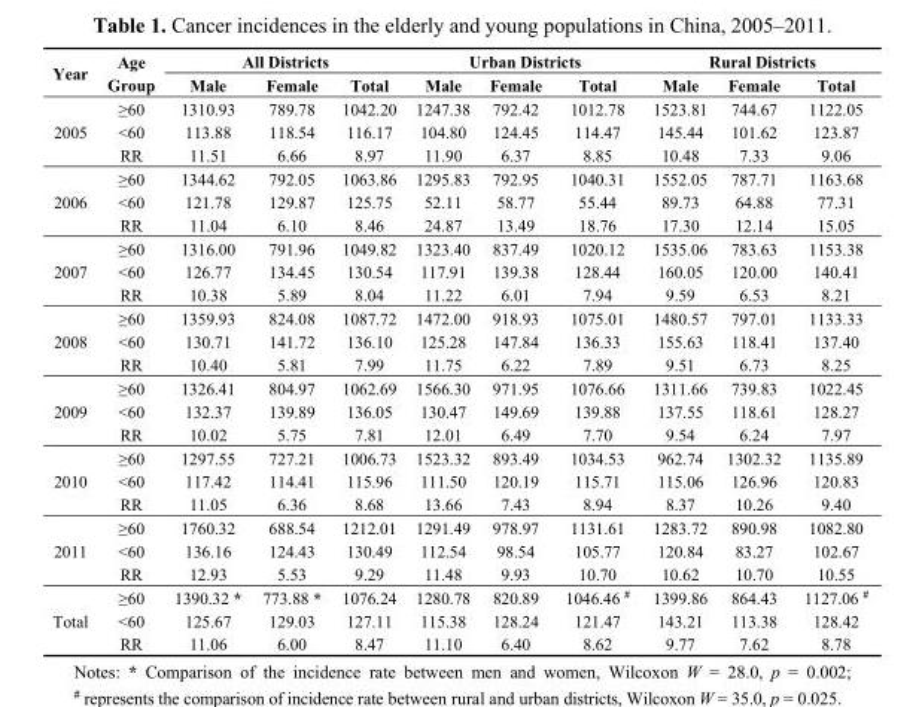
<table><thead><tr><td rowspan="2">Year</td><td rowspan="2">Age Group</td><td colspan="3">All Districts</td><td colspan="3">Urban Districts</td><td colspan="3">Rural Districts</td></tr><tr><td>Male</td><td>Female</td><td>Total</td><td>Male</td><td>Female</td><td>Total</td><td>Male</td><td>Female</td><td>Total</td></tr></thead><tbody><tr><td rowspan="3">2005</td><td>≥60</td><td>1310.93</td><td>789.78</td><td>1042.20</td><td>1247.38</td><td>792.42</td><td>1012.78</td><td>1523.81</td><td>744.67</td><td>1122.05</td></tr><tr><td>&lt;60</td><td>113.88</td><td>118.54</td><td>116.17</td><td>104.80</td><td>124.45</td><td>114.47</td><td>145.44</td><td>101.62</td><td>123.87</td></tr><tr><td>RR</td><td>11.51</td><td>6.66</td><td>8.97</td><td>11.90</td><td>6.37</td><td>8.85</td><td>10.48</td><td>7.33</td><td>9.06</td></tr><tr><td rowspan="3">2006</td><td>≥60</td><td>1344.62</td><td>792.05</td><td>1063.86</td><td>1295.83</td><td>792.95</td><td>1040.31</td><td>1552.05</td><td>787.71</td><td>1163.68</td></tr><tr><td>&lt;60</td><td>121.78</td><td>129.87</td><td>125.75</td><td>52.11</td><td>58.77</td><td>55.44</td><td>89.73</td><td>64.88</td><td>77.31</td></tr><tr><td>RR</td><td>11.04</td><td>6.10</td><td>8.46</td><td>24.87</td><td>13.49</td><td>18.76</td><td>17.30</td><td>12.14</td><td>15.05</td></tr><tr><td rowspan="3">2007</td><td>≥60</td><td>1316.00</td><td>791.96</td><td>1049.82</td><td>1323.40</td><td>837.49</td><td>1020.12</td><td>1535.06</td><td>783.63</td><td>1153.38</td></tr><tr><td>&lt;60</td><td>126.77</td><td>134.45</td><td>130.54</td><td>117.91</td><td>139.38</td><td>128.44</td><td>160.05</td><td>120.00</td><td>140.41</td></tr><tr><td>RR</td><td>10.38</td><td>5.89</td><td>8.04</td><td>11.22</td><td>6.01</td><td>7.94</td><td>9.59</td><td>6.53</td><td>8.21</td></tr><tr><td rowspan="3">2008</td><td>≥60</td><td>1359.93</td><td>824.08</td><td>1087.72</td><td>1472.00</td><td>918.93</td><td>1075.01</td><td>1480.57</td><td>797.01</td><td>1133.33</td></tr><tr><td>&lt;60</td><td>130.71</td><td>141.72</td><td>136.10</td><td>125.28</td><td>147.84</td><td>136.33</td><td>155.63</td><td>118.41</td><td>137.40</td></tr><tr><td>RR</td><td>10.40</td><td>5.81</td><td>7.99</td><td>11.75</td><td>6.22</td><td>7.89</td><td>9.51</td><td>6.73</td><td>8.25</td></tr><tr><td rowspan="3">2009</td><td>≥60</td><td>1326.41</td><td>804.97</td><td>1062.69</td><td>1566.30</td><td>971.95</td><td>1076.66</td><td>1311.66</td><td>739.83</td><td>1022.45</td></tr><tr><td>&lt;60</td><td>132.37</td><td>139.89</td><td>136.05</td><td>130.47</td><td>149.69</td><td>139.88</td><td>137.55</td><td>118.61</td><td>128.27</td></tr><tr><td>RR</td><td>10.02</td><td>5.75</td><td>7.81</td><td>12.01</td><td>6.49</td><td>7.70</td><td>9.54</td><td>6.24</td><td>7.97</td></tr><tr><td rowspan="3">2010</td><td>≥60</td><td>1297.55</td><td>727.21</td><td>1006.73</td><td>1523.32</td><td>893.49</td><td>1034.53</td><td>962.74</td><td>1302.32</td><td>1135.89</td></tr><tr><td>&lt;60</td><td>117.42</td><td>114.41</td><td>115.96</td><td>111.50</td><td>120.19</td><td>115.71</td><td>115.06</td><td>126.96</td><td>120.83</td></tr><tr><td>RR</td><td>11.05</td><td>6.36</td><td>8.68</td><td>13.66</td><td>7.43</td><td>8.94</td><td>8.37</td><td>10.26</td><td>9.40</td></tr><tr><td rowspan="3">2011</td><td>≥60</td><td>1760.32</td><td>688.54</td><td>1212.01</td><td>1291.49</td><td>978.97</td><td>1131.61</td><td>1283.72</td><td>890.98</td><td>1082.80</td></tr><tr><td>&lt;60</td><td>136.16</td><td>124.43</td><td>130.49</td><td>112.54</td><td>98.54</td><td>105.77</td><td>120.84</td><td>83.27</td><td>102.67</td></tr><tr><td>RR</td><td>12.93</td><td>5.53</td><td>9.29</td><td>11.48</td><td>9.93</td><td>10.70</td><td>10.62</td><td>10.70</td><td>10.55</td></tr><tr><td rowspan="3">Total</td><td>≥60</td><td>1390.32 *</td><td>773.88 *</td><td>1076.24</td><td>1280.78</td><td>820.89</td><td>1046.46 <sup>#</sup></td><td>1399.86</td><td>864.43</td><td>1127.06 <sup>#</sup></td></tr><tr><td>&lt;60</td><td>125.67</td><td>129.03</td><td>127.11</td><td>115.38</td><td>128.24</td><td>121.47</td><td>143.21</td><td>113.38</td><td>128.42</td></tr><tr><td>RR</td><td>11.06</td><td>6.00</td><td>8.47</td><td>11.10</td><td>6.40</td><td>8.62</td><td>9.77</td><td>7.62</td><td>8.78</td></tr></tbody></table>